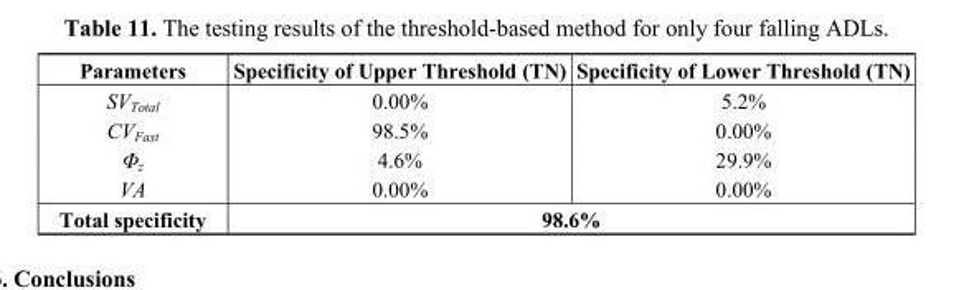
<table><thead><tr><td>Parameters</td><td>Specificity of Upper Threshold (TN)</td><td>Specificity of Lower Threshold (TN)</td></tr></thead><tbody><tr><td>SV<sub>Total</sub></td><td>0.00%</td><td>5.2%</td></tr><tr><td>CV<sub>Fast</sub></td><td>98.5%</td><td>0.00%</td></tr><tr><td>Φ<sub>z</sub></td><td>4.6%</td><td>29.9%</td></tr><tr><td>VA</td><td>0.00%</td><td>0.00%</td></tr><tr><td>Total specificity</td><td colspan="2">98.6%</td></tr></tbody></table>